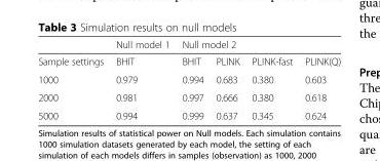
<table><thead><tr><td rowspan="2">Sample settings</td><td rowspan="2">Null model 1 BHIT</td><td colspan="4">Null model 2</td></tr><tr><td>BHIT</td><td>PLINK</td><td>PLINK-fast</td><td>PLINK(Q)</td></tr></thead><tbody><tr><td>1000</td><td>0.979</td><td>0.994</td><td>0.683</td><td>0.380</td><td>0.603</td></tr><tr><td>2000</td><td>0.981</td><td>0.997</td><td>0.666</td><td>0.380</td><td>0.618</td></tr><tr><td>5000</td><td>0.994</td><td>0.999</td><td>0.637</td><td>0.345</td><td>0.624</td></tr></tbody></table>